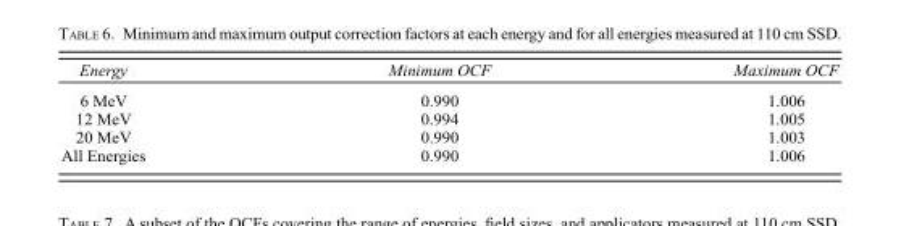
<table><thead><tr><td>Energy</td><td>Minimum OCF</td><td>Maximum OCF</td></tr></thead><tbody><tr><td>6 MeV</td><td>0.990</td><td>1.006</td></tr><tr><td>12 MeV</td><td>0.994</td><td>1.005</td></tr><tr><td>20 MeV</td><td>0.990</td><td>1.003</td></tr><tr><td>All Energies</td><td>0.990</td><td>1.006</td></tr></tbody></table>